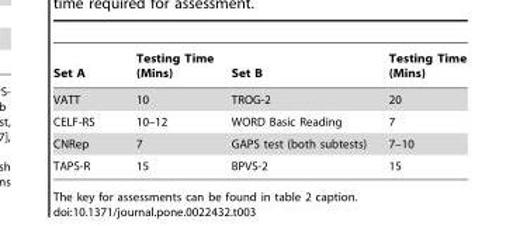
<table><thead><tr><td>Set A</td><td>Testing Time (Mins)</td><td>Set B</td><td>Testing Time (Mins)</td></tr></thead><tbody><tr><td>VATT</td><td>10</td><td>TROG-2</td><td>20</td></tr><tr><td>CELF-RS</td><td>10–12</td><td>WORD Basic Reading</td><td>7</td></tr><tr><td>CNRep</td><td>7</td><td>GAPS test (both subtests)</td><td>7–10</td></tr><tr><td>TAPS-R</td><td>15</td><td>BPVS-2</td><td>15</td></tr></tbody></table>